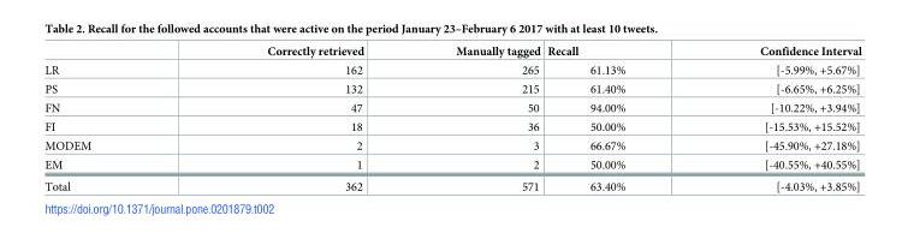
<table><thead><tr><td></td><td>Correctly retrieved</td><td>Manually tagged</td><td>Recall</td><td>Confidence Interval</td></tr></thead><tbody><tr><td>LR</td><td>162</td><td>265</td><td>61.13%</td><td>[-5.99%, +5.67%]</td></tr><tr><td>PS</td><td>132</td><td>215</td><td>61.40%</td><td>[-6.65%, +6.25%]</td></tr><tr><td>FN</td><td>47</td><td>50</td><td>94.00%</td><td>[-10.22%, +3.94%]</td></tr><tr><td>FI</td><td>18</td><td>36</td><td>50.00%</td><td>[-15.53%, +15.52%]</td></tr><tr><td>MODEM</td><td>2</td><td>3</td><td>66.67%</td><td>[-45.90%, +27.18%]</td></tr><tr><td>EM</td><td>1</td><td>2</td><td>50.00%</td><td>[-40.55%, +40.55%]</td></tr><tr><td>Total</td><td>362</td><td>571</td><td>63.40%</td><td>[-4.03%, +3.85%]</td></tr></tbody></table>